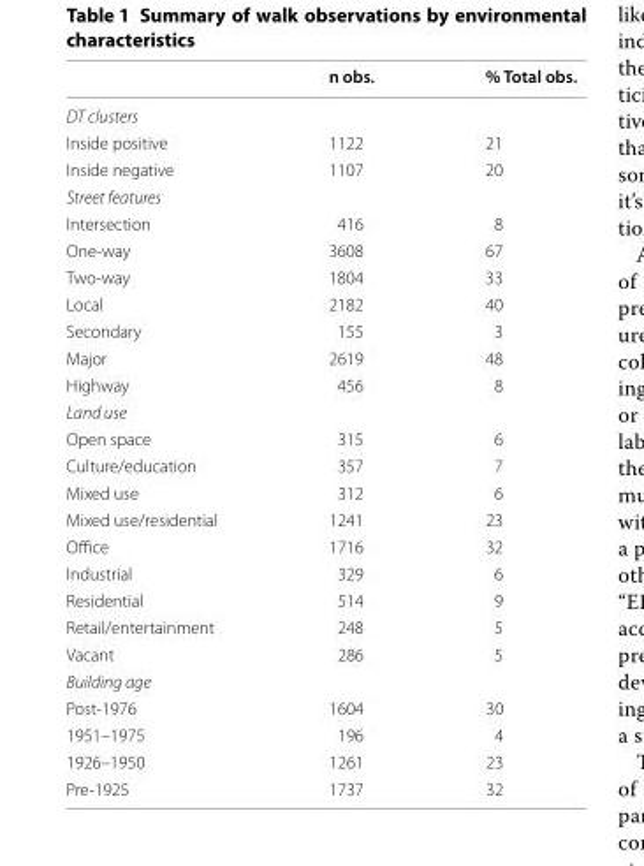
<table><thead><tr><td></td><td>n obs.</td><td>% Total obs.</td></tr></thead><tbody><tr><td colspan="3">DT clusters</td></tr><tr><td>Inside positive</td><td>1122</td><td>21</td></tr><tr><td>Inside negative</td><td>1107</td><td>20</td></tr><tr><td colspan="3">Street features</td></tr><tr><td>Intersection</td><td>416</td><td>8</td></tr><tr><td>One-way</td><td>3608</td><td>67</td></tr><tr><td>Two-way</td><td>1804</td><td>33</td></tr><tr><td>Local</td><td>2182</td><td>40</td></tr><tr><td>Secondary</td><td>155</td><td>3</td></tr><tr><td>Major</td><td>2619</td><td>48</td></tr><tr><td>Highway</td><td>456</td><td>8</td></tr><tr><td colspan="3">Land use</td></tr><tr><td>Open space</td><td>315</td><td>6</td></tr><tr><td>Culture/education</td><td>357</td><td>7</td></tr><tr><td>Mixed use</td><td>312</td><td>6</td></tr><tr><td>Mixed use/residential</td><td>1241</td><td>23</td></tr><tr><td>Office</td><td>1716</td><td>32</td></tr><tr><td>Industrial</td><td>329</td><td>6</td></tr><tr><td>Residential</td><td>514</td><td>9</td></tr><tr><td>Retail/entertainment</td><td>248</td><td>5</td></tr><tr><td>Vacant</td><td>286</td><td>5</td></tr><tr><td colspan="3">Building age</td></tr><tr><td>Post-1976</td><td>1604</td><td>30</td></tr><tr><td>1951–1975</td><td>196</td><td>4</td></tr><tr><td>1926–1950</td><td>1261</td><td>23</td></tr><tr><td>Pre-1925</td><td>1737</td><td>32</td></tr></tbody></table>